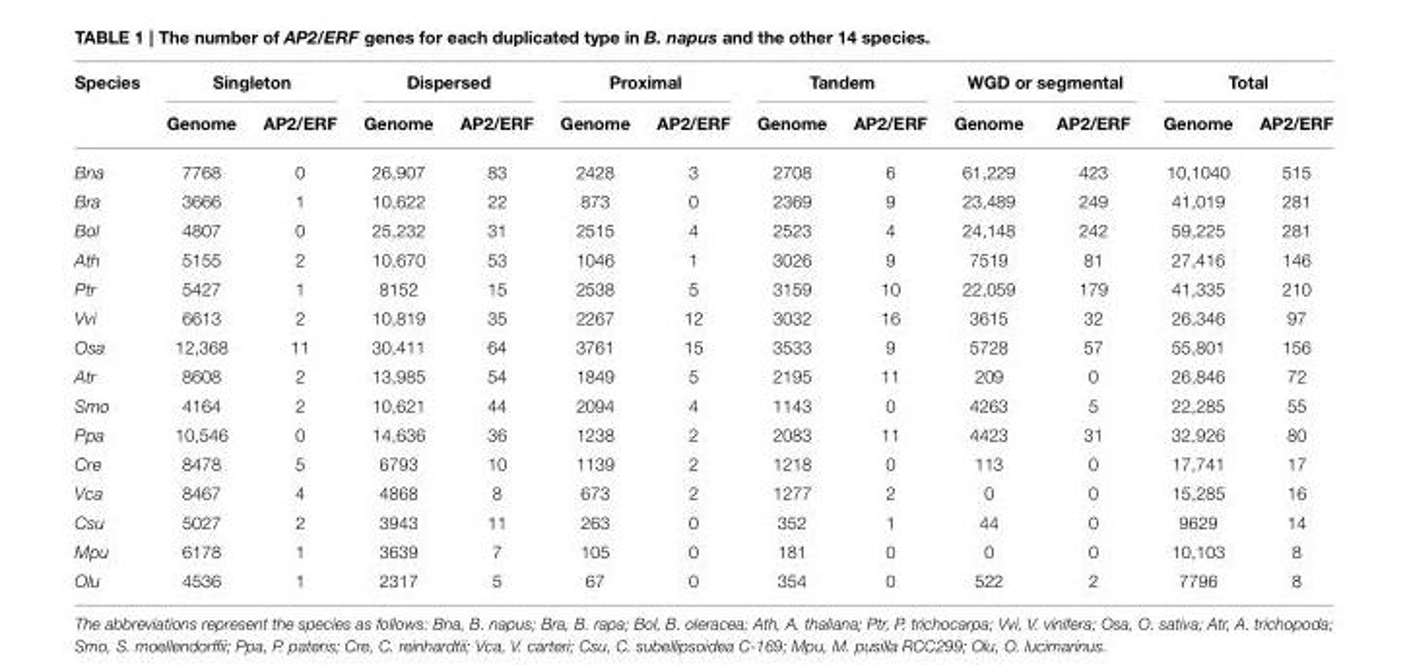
<table><thead><tr><td rowspan="2">Species</td><td colspan="2">Singleton</td><td colspan="2">Dispersed</td><td colspan="2">Proximal</td><td colspan="2">Tandem</td><td colspan="2">WGD or segmental</td><td colspan="2">Total</td></tr><tr><td>Genome</td><td>AP2/ERF</td><td>Genome</td><td>AP2/ERF</td><td>Genome</td><td>AP2/ERF</td><td>Genome</td><td>AP2/ERF</td><td>Genome</td><td>AP2/ERF</td><td>Genome</td><td>AP2/ERF</td></tr></thead><tbody><tr><td>Bna</td><td>7768</td><td>0</td><td>26,907</td><td>83</td><td>2428</td><td>3</td><td>2708</td><td>6</td><td>61,229</td><td>423</td><td>10,1040</td><td>515</td></tr><tr><td>Bra</td><td>3666</td><td>1</td><td>10,622</td><td>22</td><td>873</td><td>0</td><td>2369</td><td>9</td><td>23,489</td><td>249</td><td>41,019</td><td>281</td></tr><tr><td>Bol</td><td>4807</td><td>0</td><td>25,232</td><td>31</td><td>2515</td><td>4</td><td>2523</td><td>4</td><td>24,148</td><td>242</td><td>59,225</td><td>281</td></tr><tr><td>Ath</td><td>5155</td><td>2</td><td>10,670</td><td>53</td><td>1046</td><td>1</td><td>3026</td><td>9</td><td>7519</td><td>81</td><td>27,416</td><td>146</td></tr><tr><td>Ptr</td><td>5427</td><td>1</td><td>8152</td><td>15</td><td>2538</td><td>5</td><td>3159</td><td>10</td><td>22,059</td><td>179</td><td>41,335</td><td>210</td></tr><tr><td>Vvi</td><td>6613</td><td>2</td><td>10,819</td><td>35</td><td>2267</td><td>12</td><td>3032</td><td>16</td><td>3615</td><td>32</td><td>26,346</td><td>97</td></tr><tr><td>Osa</td><td>12,368</td><td>11</td><td>30,411</td><td>64</td><td>3761</td><td>15</td><td>3533</td><td>9</td><td>5728</td><td>57</td><td>55,801</td><td>156</td></tr><tr><td>Atr</td><td>8608</td><td>2</td><td>13,985</td><td>54</td><td>1849</td><td>5</td><td>2195</td><td>11</td><td>209</td><td>0</td><td>26,846</td><td>72</td></tr><tr><td>Smo</td><td>4164</td><td>2</td><td>10,621</td><td>44</td><td>2094</td><td>4</td><td>1143</td><td>0</td><td>4263</td><td>5</td><td>22,285</td><td>55</td></tr><tr><td>Ppa</td><td>10,546</td><td>0</td><td>14,636</td><td>36</td><td>1238</td><td>2</td><td>2083</td><td>11</td><td>4423</td><td>31</td><td>32,926</td><td>80</td></tr><tr><td>Cre</td><td>8478</td><td>5</td><td>6793</td><td>10</td><td>1139</td><td>2</td><td>1218</td><td>0</td><td>113</td><td>0</td><td>17,741</td><td>17</td></tr><tr><td>Vca</td><td>8467</td><td>4</td><td>4868</td><td>8</td><td>673</td><td>2</td><td>1277</td><td>2</td><td>0</td><td>0</td><td>15,285</td><td>16</td></tr><tr><td>Csu</td><td>5027</td><td>2</td><td>3943</td><td>11</td><td>263</td><td>0</td><td>352</td><td>1</td><td>44</td><td>0</td><td>9629</td><td>14</td></tr><tr><td>Mpu</td><td>6178</td><td>1</td><td>3639</td><td>7</td><td>105</td><td>0</td><td>181</td><td>0</td><td>0</td><td>0</td><td>10,103</td><td>8</td></tr><tr><td>Olu</td><td>4536</td><td>1</td><td>2317</td><td>5</td><td>67</td><td>0</td><td>354</td><td>0</td><td>522</td><td>2</td><td>7796</td><td>8</td></tr></tbody></table>